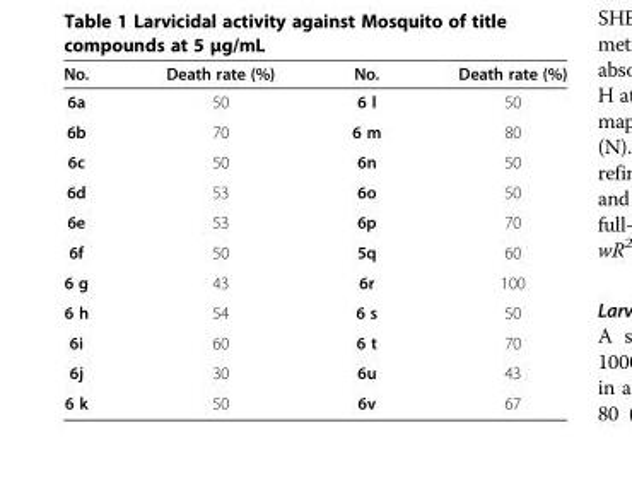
<table><thead><tr><td>No.</td><td>Death rate (%)</td><td>No.</td><td>Death rate (%)</td></tr></thead><tbody><tr><td>6a</td><td>50</td><td>6 l</td><td>50</td></tr><tr><td>6b</td><td>70</td><td>6 m</td><td>80</td></tr><tr><td>6c</td><td>50</td><td>6n</td><td>50</td></tr><tr><td>6d</td><td>53</td><td>6o</td><td>50</td></tr><tr><td>6e</td><td>53</td><td>6p</td><td>70</td></tr><tr><td>6f</td><td>50</td><td>5q</td><td>60</td></tr><tr><td>6 g</td><td>43</td><td>6r</td><td>100</td></tr><tr><td>6 h</td><td>54</td><td>6 s</td><td>50</td></tr><tr><td>6i</td><td>60</td><td>6 t</td><td>70</td></tr><tr><td>6j</td><td>30</td><td>6u</td><td>43</td></tr><tr><td>6 k</td><td>50</td><td>6v</td><td>67</td></tr></tbody></table>